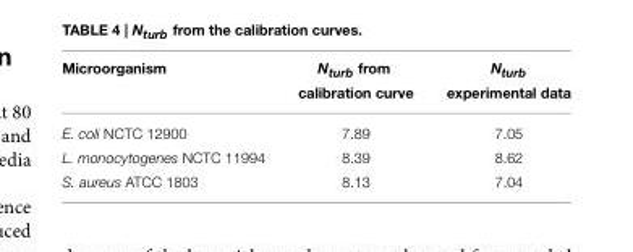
<table><thead><tr><td>Microorganism</td><td>N<sub>turb</sub> from calibration curve</td><td>N<sub>turb</sub> experimental data</td></tr></thead><tbody><tr><td>E. coli NCTC 12900</td><td>7.89</td><td>7.05</td></tr><tr><td>L. monocytogenes NCTC 11994</td><td>8.39</td><td>8.62</td></tr><tr><td>S. aureus ATCC 1803</td><td>8.13</td><td>7.04</td></tr></tbody></table>